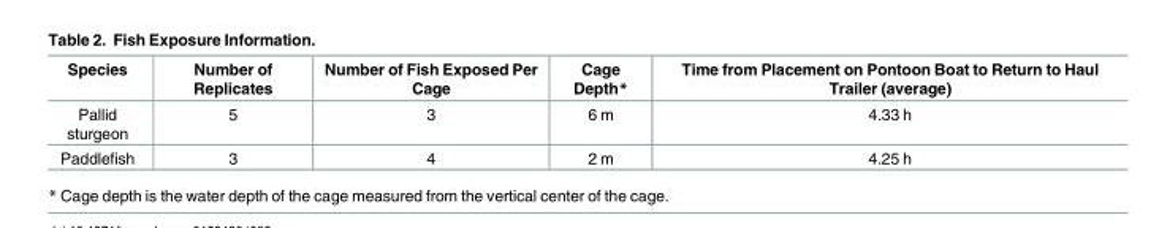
<table><thead><tr><td>Species</td><td>Number of Replicates</td><td>Number of Fish Exposed Per Cage</td><td>Cage Depth*</td><td>Time from Placement on Pontoon Boat to Return to Haul Trailer (average)</td></tr></thead><tbody><tr><td>Pallid sturgeon</td><td>5</td><td>3</td><td>6 m</td><td>4.33 h</td></tr><tr><td>Paddlefish</td><td>3</td><td>4</td><td>2 m</td><td>4.25 h</td></tr></tbody></table>